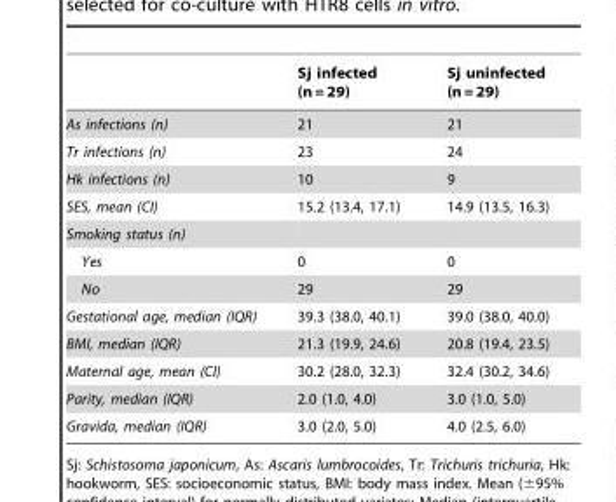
<table><thead><tr><td></td><td>Sj infected (n = 29)</td><td>Sj uninfected (n = 29)</td></tr></thead><tbody><tr><td>As infections (n)</td><td>21</td><td>21</td></tr><tr><td>Tr infections (n)</td><td>23</td><td>24</td></tr><tr><td>Hk infections (n)</td><td>10</td><td>9</td></tr><tr><td>SES, mean (CI)</td><td>15.2 (13.4, 17.1)</td><td>14.9 (13.5, 16.3)</td></tr><tr><td colspan="3">Smoking status (n)</td></tr><tr><td>Yes</td><td>0</td><td>0</td></tr><tr><td>No</td><td>29</td><td>29</td></tr><tr><td>Gestational age, median (IQR)</td><td>39.3 (38.0, 40.1)</td><td>39.0 (38.0, 40.0)</td></tr><tr><td>BMI, median (IQR)</td><td>21.3 (19.9, 24.6)</td><td>20.8 (19.4, 23.5)</td></tr><tr><td>Maternal age, mean (CI)</td><td>30.2 (28.0, 32.3)</td><td>32.4 (30.2, 34.6)</td></tr><tr><td>Parity, median (IQR)</td><td>2.0 (1.0, 4.0)</td><td>3.0 (1.0, 5.0)</td></tr><tr><td>Gravida, median (IQR)</td><td>3.0 (2.0, 5.0)</td><td>4.0 (2.5, 6.0)</td></tr></tbody></table>